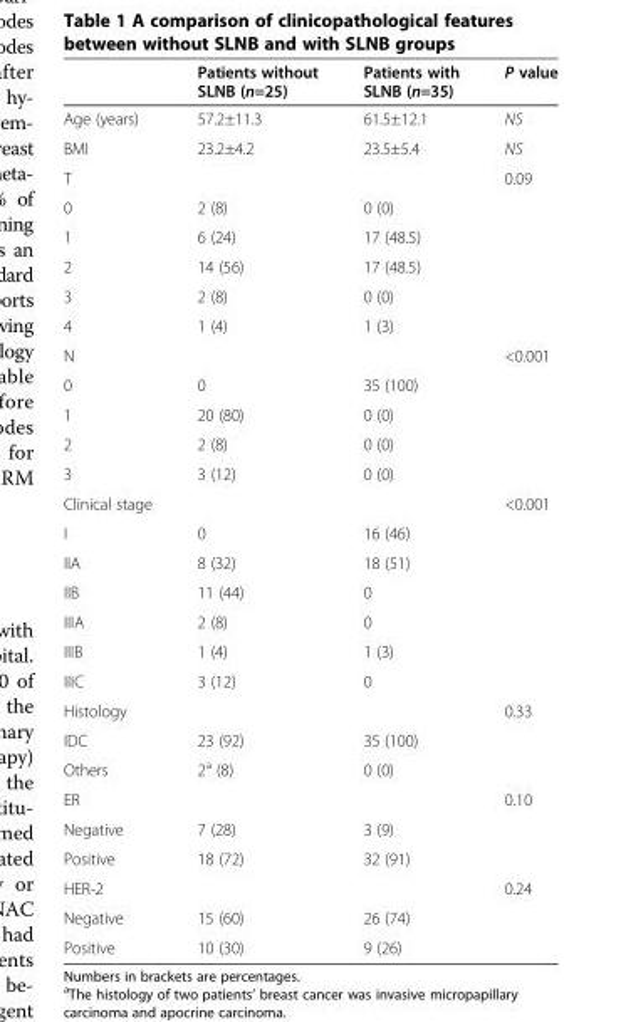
<table><thead><tr><td></td><td>Patients without SLNB (n=25)</td><td>Patients with SLNB (n=35)</td><td>P value</td></tr></thead><tbody><tr><td>Age (years)</td><td>57.2±11.3</td><td>61.5±12.1</td><td>NS</td></tr><tr><td>BMI</td><td>23.2±4.2</td><td>23.5±5.4</td><td>NS</td></tr><tr><td>T</td><td></td><td></td><td>0.09</td></tr><tr><td>0</td><td>2 (8)</td><td>0 (0)</td><td></td></tr><tr><td>1</td><td>6 (24)</td><td>17 (48.5)</td><td></td></tr><tr><td>2</td><td>14 (56)</td><td>17 (48.5)</td><td></td></tr><tr><td>3</td><td>2 (8)</td><td>0 (0)</td><td></td></tr><tr><td>4</td><td>1 (4)</td><td>1 (3)</td><td></td></tr><tr><td>N</td><td></td><td></td><td>&lt;0.001</td></tr><tr><td>0</td><td>0</td><td>35 (100)</td><td></td></tr><tr><td>1</td><td>20 (80)</td><td>0 (0)</td><td></td></tr><tr><td>2</td><td>2 (8)</td><td>0 (0)</td><td></td></tr><tr><td>3</td><td>3 (12)</td><td>0 (0)</td><td></td></tr><tr><td>Clinical stage</td><td></td><td></td><td>&lt;0.001</td></tr><tr><td>I</td><td>0</td><td>16 (46)</td><td></td></tr><tr><td>IIA</td><td>8 (32)</td><td>18 (51)</td><td></td></tr><tr><td>IIB</td><td>11 (44)</td><td>0</td><td></td></tr><tr><td>IIIA</td><td>2 (8)</td><td>0</td><td></td></tr><tr><td>IIIB</td><td>1 (4)</td><td>1 (3)</td><td></td></tr><tr><td>IIIC</td><td>3 (12)</td><td>0</td><td></td></tr><tr><td>Histology</td><td></td><td></td><td>0.33</td></tr><tr><td>IDC</td><td>23 (92)</td><td>35 (100)</td><td></td></tr><tr><td>Others</td><td>2<sup>a</sup> (8)</td><td>0 (0)</td><td></td></tr><tr><td>ER</td><td></td><td></td><td>0.10</td></tr><tr><td>Negative</td><td>7 (28)</td><td>3 (9)</td><td></td></tr><tr><td>Positive</td><td>18 (72)</td><td>32 (91)</td><td></td></tr><tr><td>HER-2</td><td></td><td></td><td>0.24</td></tr><tr><td>Negative</td><td>15 (60)</td><td>26 (74)</td><td></td></tr><tr><td>Positive</td><td>10 (30)</td><td>9 (26)</td><td></td></tr></tbody></table>